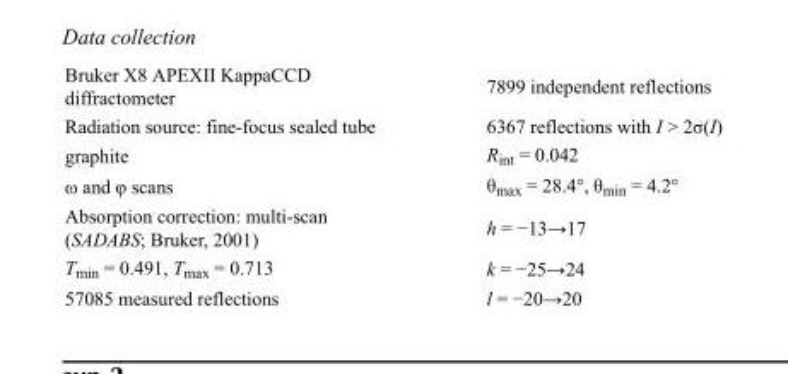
<table><tbody><tr><td>Bruker X8 APEXII KappaCCD diffractometer</td><td>7899 independent reflections</td></tr><tr><td>Radiation source: fine-focus sealed tube</td><td>6367 reflections with I &gt; 2σ(I)</td></tr><tr><td>graphite</td><td>R<sub>int</sub> = 0.042</td></tr><tr><td>ω and φ scans</td><td>θ<sub>max</sub> = 28.4°, θ<sub>min</sub> = 4.2°</td></tr><tr><td>Absorption correction: multi-scan (SADABS; Bruker, 2001)</td><td>h = −13→17</td></tr><tr><td>T<sub>min</sub> = 0.491, T<sub>max</sub> = 0.713</td><td>k = −25→24</td></tr><tr><td>57085 measured reflections</td><td>l = −20→20</td></tr></tbody></table>